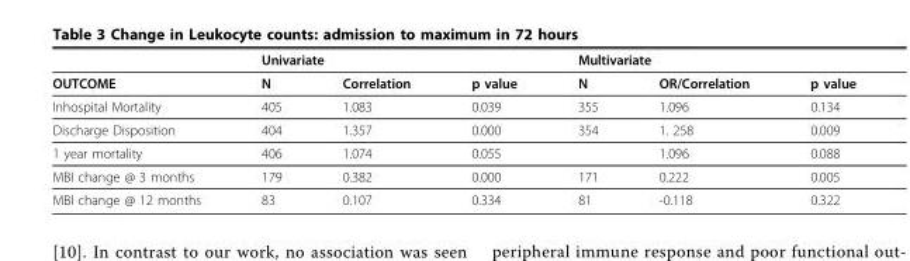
<table><thead><tr><td rowspan="2">OUTCOME</td><td colspan="3">Univariate</td><td colspan="3">Multivariate</td></tr><tr><td>N</td><td>Correlation</td><td>p value</td><td>N</td><td>OR/Correlation</td><td>p value</td></tr></thead><tbody><tr><td>Inhospital Mortality</td><td>405</td><td>1.083</td><td>0.039</td><td>355</td><td>1.096</td><td>0.134</td></tr><tr><td>Discharge Disposition</td><td>404</td><td>1.357</td><td>0.000</td><td>354</td><td>1. 258</td><td>0.009</td></tr><tr><td>1 year mortality</td><td>406</td><td>1.074</td><td>0.055</td><td></td><td>1.096</td><td>0.088</td></tr><tr><td>MBI change @ 3 months</td><td>179</td><td>0.382</td><td>0.000</td><td>171</td><td>0.222</td><td>0.005</td></tr><tr><td>MBI change @ 12 months</td><td>83</td><td>0.107</td><td>0.334</td><td>81</td><td>-0.118</td><td>0.322</td></tr></tbody></table>